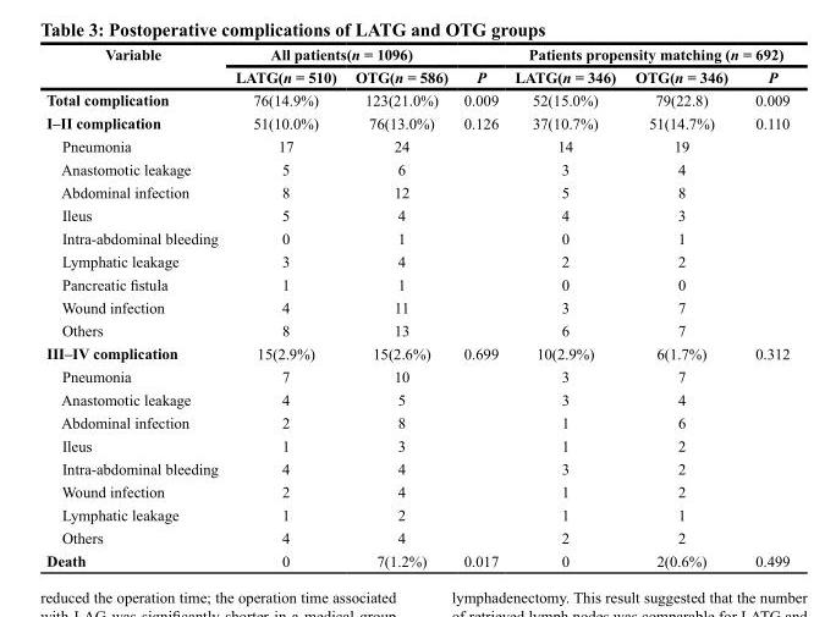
<table><thead><tr><td rowspan="2">Variable</td><td colspan="2">All patients(n = 1096)</td><td rowspan="2">P</td><td colspan="3">Patients propensity matching (n = 692)</td></tr><tr><td>LATG(n = 510)</td><td>OTG(n = 586)</td><td>LATG(n = 346)</td><td>OTG(n = 346)</td><td>P</td></tr></thead><tbody><tr><td>Total complication</td><td>76(14.9%)</td><td>123(21.0%)</td><td>0.009</td><td>52(15.0%)</td><td>79(22.8)</td><td>0.009</td></tr><tr><td>I–II complication</td><td>51(10.0%)</td><td>76(13.0%)</td><td>0.126</td><td>37(10.7%)</td><td>51(14.7%)</td><td>0.110</td></tr><tr><td>Pneumonia</td><td>17</td><td>24</td><td></td><td>14</td><td>19</td><td></td></tr><tr><td>Anastomotic leakage</td><td>5</td><td>6</td><td></td><td>3</td><td>4</td><td></td></tr><tr><td>Abdominal infection</td><td>8</td><td>12</td><td></td><td>5</td><td>8</td><td></td></tr><tr><td>Ileus</td><td>5</td><td>4</td><td></td><td>4</td><td>3</td><td></td></tr><tr><td>Intra-abdominal bleeding</td><td>0</td><td>1</td><td></td><td>0</td><td>1</td><td></td></tr><tr><td>Lymphatic leakage</td><td>3</td><td>4</td><td></td><td>2</td><td>2</td><td></td></tr><tr><td>Pancreatic fistula</td><td>1</td><td>1</td><td></td><td>0</td><td>0</td><td></td></tr><tr><td>Wound infection</td><td>4</td><td>11</td><td></td><td>3</td><td>7</td><td></td></tr><tr><td>Others</td><td>8</td><td>13</td><td></td><td>6</td><td>7</td><td></td></tr><tr><td>III–IV complication</td><td>15(2.9%)</td><td>15(2.6%)</td><td>0.699</td><td>10(2.9%)</td><td>6(1.7%)</td><td>0.312</td></tr><tr><td>Pneumonia</td><td>7</td><td>10</td><td></td><td>3</td><td>7</td><td></td></tr><tr><td>Anastomotic leakage</td><td>4</td><td>5</td><td></td><td>3</td><td>4</td><td></td></tr><tr><td>Abdominal infection</td><td>2</td><td>8</td><td></td><td>1</td><td>6</td><td></td></tr><tr><td>Ileus</td><td>1</td><td>3</td><td></td><td>1</td><td>2</td><td></td></tr><tr><td>Intra-abdominal bleeding</td><td>4</td><td>4</td><td></td><td>3</td><td>2</td><td></td></tr><tr><td>Wound infection</td><td>2</td><td>4</td><td></td><td>1</td><td>2</td><td></td></tr><tr><td>Lymphatic leakage</td><td>1</td><td>2</td><td></td><td>1</td><td>1</td><td></td></tr><tr><td>Others</td><td>4</td><td>4</td><td></td><td>2</td><td>2</td><td></td></tr><tr><td>Death</td><td>0</td><td>7(1.2%)</td><td>0.017</td><td>0</td><td>2(0.6%)</td><td>0.499</td></tr></tbody></table>